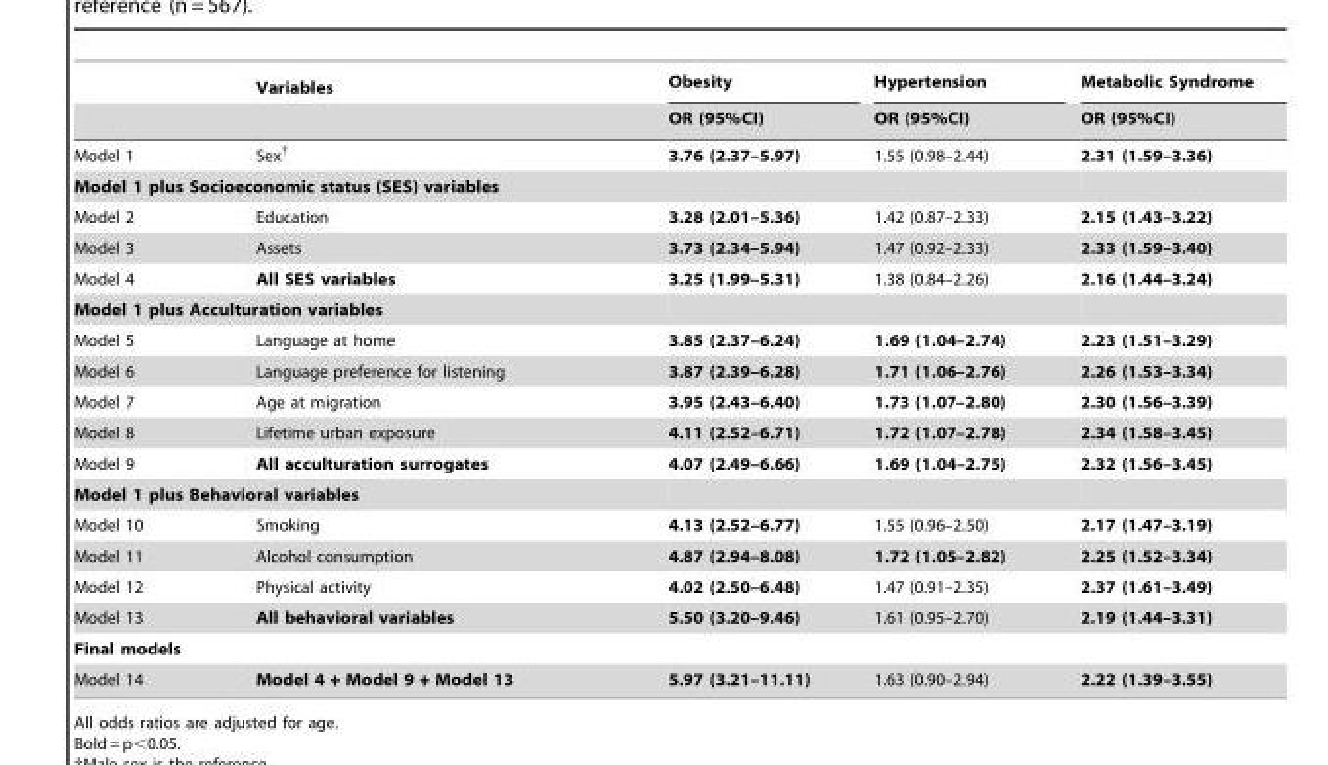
<table><thead><tr><td rowspan="2"></td><td rowspan="2">Variables</td><td rowspan="2">Obesity OR (95%CI)</td><td rowspan="2">Hypertension OR (95%CI)</td><td rowspan="2">Metabolic Syndrome OR (95%CI)</td></tr><tr></tr></thead><tbody><tr><td>Model 1</td><td>Sex†</td><td>3.76 (2.37–5.97)</td><td>1.55 (0.98–2.44)</td><td>2.31 (1.59–3.36)</td></tr><tr><td colspan="5">Model 1 plus Socioeconomic status (SES) variables</td></tr><tr><td>Model 2</td><td>Education</td><td>3.28 (2.01–5.36)</td><td>1.42 (0.87–2.33)</td><td>2.15 (1.43–3.22)</td></tr><tr><td>Model 3</td><td>Assets</td><td>3.73 (2.34–5.94)</td><td>1.47 (0.92–2.33)</td><td>2.33 (1.59–3.40)</td></tr><tr><td>Model 4</td><td>All SES variables</td><td>3.25 (1.99–5.31)</td><td>1.38 (0.84–2.26)</td><td>2.16 (1.44–3.24)</td></tr><tr><td colspan="5">Model 1 plus Acculturation variables</td></tr><tr><td>Model 5</td><td>Language at home</td><td>3.85 (2.37–6.24)</td><td>1.69 (1.04–2.74)</td><td>2.23 (1.51–3.29)</td></tr><tr><td>Model 6</td><td>Language preference for listening</td><td>3.87 (2.39–6.28)</td><td>1.71 (1.06–2.76)</td><td>2.26 (1.53–3.34)</td></tr><tr><td>Model 7</td><td>Age at migration</td><td>3.95 (2.43–6.40)</td><td>1.73 (1.07–2.80)</td><td>2.30 (1.56–3.39)</td></tr><tr><td>Model 8</td><td>Lifetime urban exposure</td><td>4.11 (2.52–6.71)</td><td>1.72 (1.07–2.78)</td><td>2.34 (1.58–3.45)</td></tr><tr><td>Model 9</td><td>All acculturation surrogates</td><td>4.07 (2.49–6.66)</td><td>1.69 (1.04–2.75)</td><td>2.32 (1.56–3.45)</td></tr><tr><td colspan="5">Model 1 plus Behavioral variables</td></tr><tr><td>Model 10</td><td>Smoking</td><td>4.13 (2.52–6.77)</td><td>1.55 (0.96–2.50)</td><td>2.17 (1.47–3.19)</td></tr><tr><td>Model 11</td><td>Alcohol consumption</td><td>4.87 (2.94–8.08)</td><td>1.72 (1.05–2.82)</td><td>2.25 (1.52–3.34)</td></tr><tr><td>Model 12</td><td>Physical activity</td><td>4.02 (2.50–6.48)</td><td>1.47 (0.91–2.35)</td><td>2.37 (1.61–3.49)</td></tr><tr><td>Model 13</td><td>All behavioral variables</td><td>5.50 (3.20–9.46)</td><td>1.61 (0.95–2.70)</td><td>2.19 (1.44–3.31)</td></tr><tr><td colspan="5">Final models</td></tr><tr><td>Model 14</td><td>Model 4 + Model 9 + Model 13</td><td>5.97 (3.21–11.11)</td><td>1.63 (0.90–2.94)</td><td>2.22 (1.39–3.55)</td></tr></tbody></table>